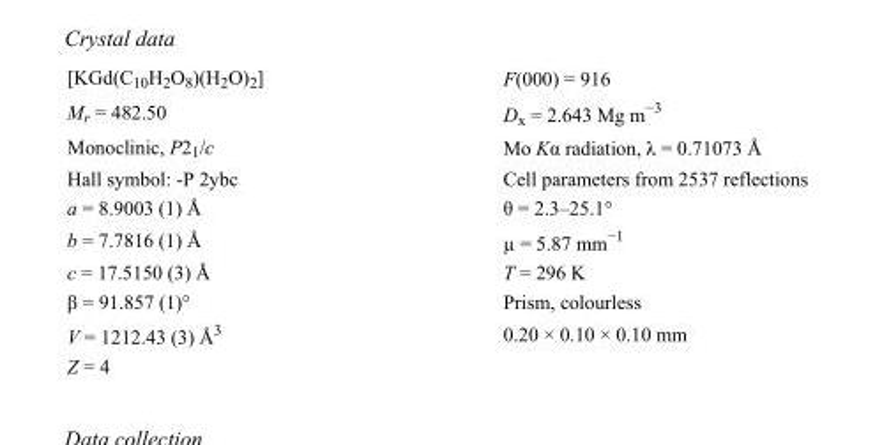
<table><tbody><tr><td>[KGd(C<sub>10</sub>H<sub>2</sub>O<sub>8</sub>)(H<sub>2</sub>O)<sub>2</sub>]</td><td>F(000) = 916</td></tr><tr><td>M<sub>r</sub> = 482.50</td><td>D<sub>x</sub> = 2.643 Mg m<sup>−3</sup></td></tr><tr><td>Monoclinic, P2<sub>1</sub>/c</td><td>Mo Kα radiation, λ = 0.71073 Å</td></tr><tr><td>Hall symbol: -P 2ybc</td><td>Cell parameters from 2537 reflections</td></tr><tr><td>a = 8.9003 (1) Å</td><td>θ = 2.3–25.1°</td></tr><tr><td>b = 7.7816 (1) Å</td><td>µ = 5.87 mm<sup>−1</sup></td></tr><tr><td>c = 17.5150 (3) Å</td><td>T = 296 K</td></tr><tr><td>β = 91.857 (1)°</td><td>Prism, colourless</td></tr><tr><td>V = 1212.43 (3) Å<sup>3</sup></td><td>0.20 × 0.10 × 0.10 mm</td></tr><tr><td>Z = 4</td><td></td></tr></tbody></table>